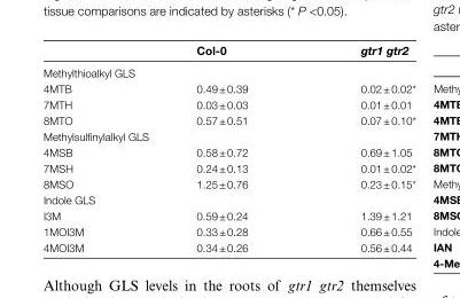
<table><thead><tr><td></td><td>Col-0</td><td>gtr1 gtr2</td></tr></thead><tbody><tr><td colspan="3">Methylthioalkyl GLS</td></tr><tr><td>4MTB</td><td>0.49 ± 0.39</td><td>0.02 ± 0.02*</td></tr><tr><td>7MTH</td><td>0.03 ± 0.03</td><td>0.01 ± 0.01</td></tr><tr><td>8MTO</td><td>0.57 ± 0.51</td><td>0.07 ± 0.10*</td></tr><tr><td colspan="3">Methylsulfinylalkyl GLS</td></tr><tr><td>4MSB</td><td>0.58 ± 0.72</td><td>0.69 ± 1.05</td></tr><tr><td>7MSH</td><td>0.24 ± 0.13</td><td>0.01 ± 0.02*</td></tr><tr><td>8MSO</td><td>1.25 ± 0.76</td><td>0.23 ± 0.15*</td></tr><tr><td colspan="3">Indole GLS</td></tr><tr><td>I3M</td><td>0.59 ± 0.24</td><td>1.39 ± 1.21</td></tr><tr><td>1MOI3M</td><td>0.33 ± 0.28</td><td>0.66 ± 0.55</td></tr><tr><td>4MOI3M</td><td>0.34 ± 0.26</td><td>0.56 ± 0.44</td></tr></tbody></table>